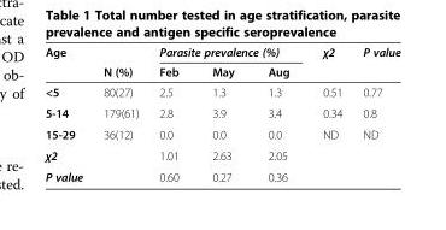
<table><thead><tr><td rowspan="2">Age</td><td rowspan="2">N (%)</td><td colspan="3">Parasite prevalence (%)</td><td rowspan="2">χ2</td><td rowspan="2">P value</td></tr><tr><td>Feb</td><td>May</td><td>Aug</td></tr></thead><tbody><tr><td>&lt;5</td><td>80(27)</td><td>2.5</td><td>1.3</td><td>1.3</td><td>0.51</td><td>0.77</td></tr><tr><td>5-14</td><td>179(61)</td><td>2.8</td><td>3.9</td><td>3.4</td><td>0.34</td><td>0.8</td></tr><tr><td>15-29</td><td>36(12)</td><td>0.0</td><td>0.0</td><td>0.0</td><td>ND</td><td>ND</td></tr><tr><td>χ2</td><td></td><td>1.01</td><td>2.63</td><td>2.05</td><td></td><td></td></tr><tr><td>P value</td><td></td><td>0.60</td><td>0.27</td><td>0.36</td><td></td><td></td></tr></tbody></table>